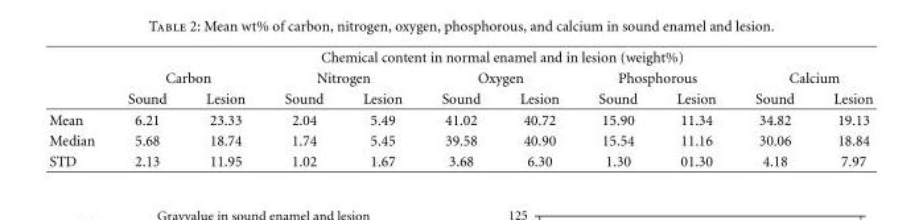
<table><thead><tr><td rowspan="3"></td><td colspan="10">Chemical content in normal enamel and in lesion (weight%)</td></tr><tr><td colspan="2">Carbon</td><td colspan="2">Nitrogen</td><td colspan="2">Oxygen</td><td colspan="2">Phosphorous</td><td colspan="2">Calcium</td></tr><tr><td>Sound</td><td>Lesion</td><td>Sound</td><td>Lesion</td><td>Sound</td><td>Lesion</td><td>Sound</td><td>Lesion</td><td>Sound</td><td>Lesion</td></tr></thead><tbody><tr><td>Mean</td><td>6.21</td><td>23.33</td><td>2.04</td><td>5.49</td><td>41.02</td><td>40.72</td><td>15.90</td><td>11.34</td><td>34.82</td><td>19.13</td></tr><tr><td>Median</td><td>5.68</td><td>18.74</td><td>1.74</td><td>5.45</td><td>39.58</td><td>40.90</td><td>15.54</td><td>11.16</td><td>30.06</td><td>18.84</td></tr><tr><td>STD</td><td>2.13</td><td>11.95</td><td>1.02</td><td>1.67</td><td>3.68</td><td>6.30</td><td>1.30</td><td>01.30</td><td>4.18</td><td>7.97</td></tr></tbody></table>